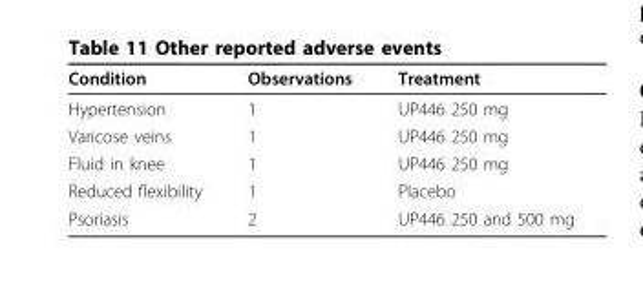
<table><thead><tr><td>Condition</td><td>Observations</td><td>Treatment</td></tr></thead><tbody><tr><td>Hypertension</td><td>1</td><td>UP446 250 mg</td></tr><tr><td>Varicose veins</td><td>1</td><td>UP446 250 mg</td></tr><tr><td>Fluid in knee</td><td>1</td><td>UP446 250 mg</td></tr><tr><td>Reduced flexibility</td><td>1</td><td>Placebo</td></tr><tr><td>Psoriasis</td><td>2</td><td>UP446 250 and 500 mg</td></tr></tbody></table>